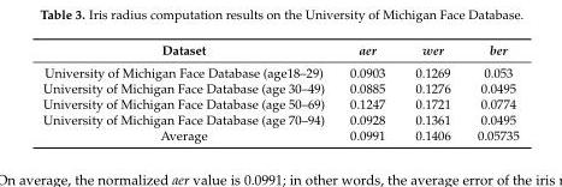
<table><thead><tr><td>Dataset</td><td>aer</td><td>wer</td><td>ber</td></tr></thead><tbody><tr><td>University of Michigan Face Database (age18–29)</td><td>0.0903</td><td>0.1269</td><td>0.053</td></tr><tr><td>University of Michigan Face Database (age 30–49)</td><td>0.0885</td><td>0.1276</td><td>0.0495</td></tr><tr><td>University of Michigan Face Database (age 50–69)</td><td>0.1247</td><td>0.1721</td><td>0.0774</td></tr><tr><td>University of Michigan Face Database (age 70–94)</td><td>0.0928</td><td>0.1361</td><td>0.0495</td></tr><tr><td>Average</td><td>0.0991</td><td>0.1406</td><td>0.05735</td></tr></tbody></table>